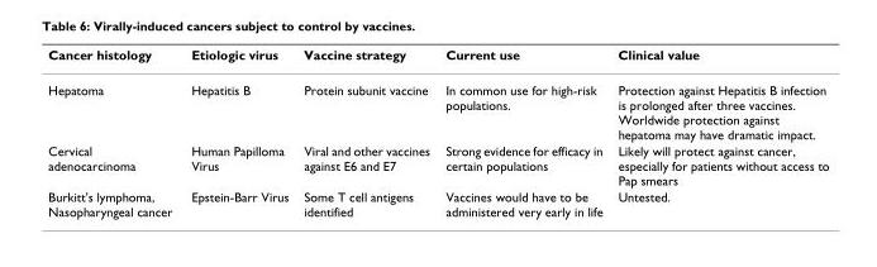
<table><thead><tr><td>Cancer histology</td><td>Etiologic virus</td><td>Vaccine strategy</td><td>Current use</td><td>Clinical value</td></tr></thead><tbody><tr><td>Hepatoma</td><td>Hepatitis B</td><td>Protein subunit vaccine</td><td>In common use for high-risk populations.</td><td>Protection against Hepatitis B infection is prolonged after three vaccines. Worldwide protection against hepatoma may have dramatic impact.</td></tr><tr><td>Cervical adenocarcinoma</td><td>Human Papilloma Virus</td><td>Viral and other vaccines against E6 and E7</td><td>Strong evidence for efficacy in certain populations</td><td>Likely will protect against cancer, especially for patients without access to Pap smears</td></tr><tr><td>Burkitt&#x27;s lymphoma, Nasopharyngeal cancer</td><td>Epstein-Barr Virus</td><td>Some T cell antigens identified</td><td>Vaccines would have to be administered very early in life</td><td>Untested.</td></tr></tbody></table>